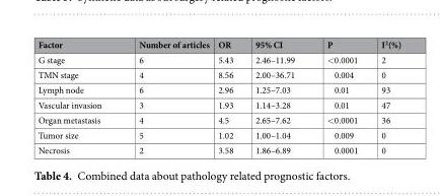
<table><thead><tr><td>Factor</td><td>Number of articles</td><td>OR</td><td>95% CI</td><td>P</td><td>I<sup>2</sup>(%)</td></tr></thead><tbody><tr><td>G stage</td><td>6</td><td>5.43</td><td>2.46–11.99</td><td>&lt;0.0001</td><td>2</td></tr><tr><td>TMN stage</td><td>4</td><td>8.56</td><td>2.00–36.71</td><td>0.004</td><td>0</td></tr><tr><td>Lymph node</td><td>6</td><td>2.96</td><td>1.25–7.03</td><td>0.01</td><td>93</td></tr><tr><td>Vascular invasion</td><td>3</td><td>1.93</td><td>1.14–3.28</td><td>0.01</td><td>47</td></tr><tr><td>Organ metastasis</td><td>4</td><td>4.5</td><td>2.65–7.62</td><td>&lt;0.0001</td><td>36</td></tr><tr><td>Tumor size</td><td>5</td><td>1.02</td><td>1.00–1.04</td><td>0.009</td><td>0</td></tr><tr><td>Necrosis</td><td>2</td><td>3.58</td><td>1.86–6.89</td><td>0.0001</td><td>0</td></tr></tbody></table>